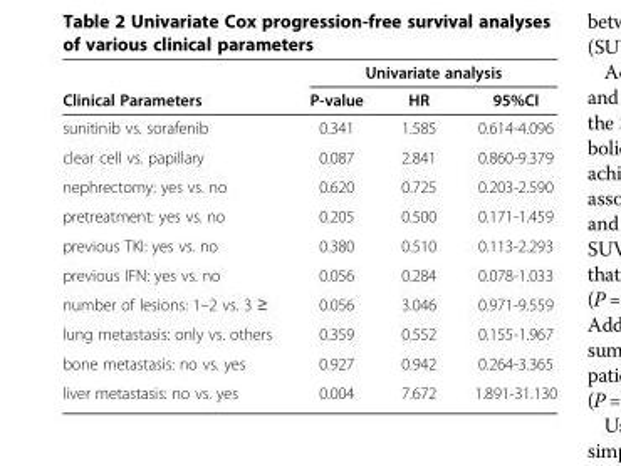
<table><thead><tr><td rowspan="2">Clinical Parameters</td><td colspan="3">Univariate analysis</td></tr><tr><td>P-value</td><td>HR</td><td>95%CI</td></tr></thead><tbody><tr><td>sunitinib vs. sorafenib</td><td>0.341</td><td>1.585</td><td>0.614-4.096</td></tr><tr><td>clear cell vs. papillary</td><td>0.087</td><td>2.841</td><td>0.860-9.379</td></tr><tr><td>nephrectomy: yes vs. no</td><td>0.620</td><td>0.725</td><td>0.203-2.590</td></tr><tr><td>pretreatment: yes vs. no</td><td>0.205</td><td>0.500</td><td>0.171-1.459</td></tr><tr><td>previous TKI: yes vs. no</td><td>0.380</td><td>0.510</td><td>0.113-2.293</td></tr><tr><td>previous IFN: yes vs. no</td><td>0.056</td><td>0.284</td><td>0.078-1.033</td></tr><tr><td>number of lesions: 1–2 vs. 3 ≥</td><td>0.056</td><td>3.046</td><td>0.971-9.559</td></tr><tr><td>lung metastasis: only vs. others</td><td>0.359</td><td>0.552</td><td>0.155-1.967</td></tr><tr><td>bone metastasis: no vs. yes</td><td>0.927</td><td>0.942</td><td>0.264-3.365</td></tr><tr><td>liver metastasis: no vs. yes</td><td>0.004</td><td>7.672</td><td>1.891-31.130</td></tr></tbody></table>